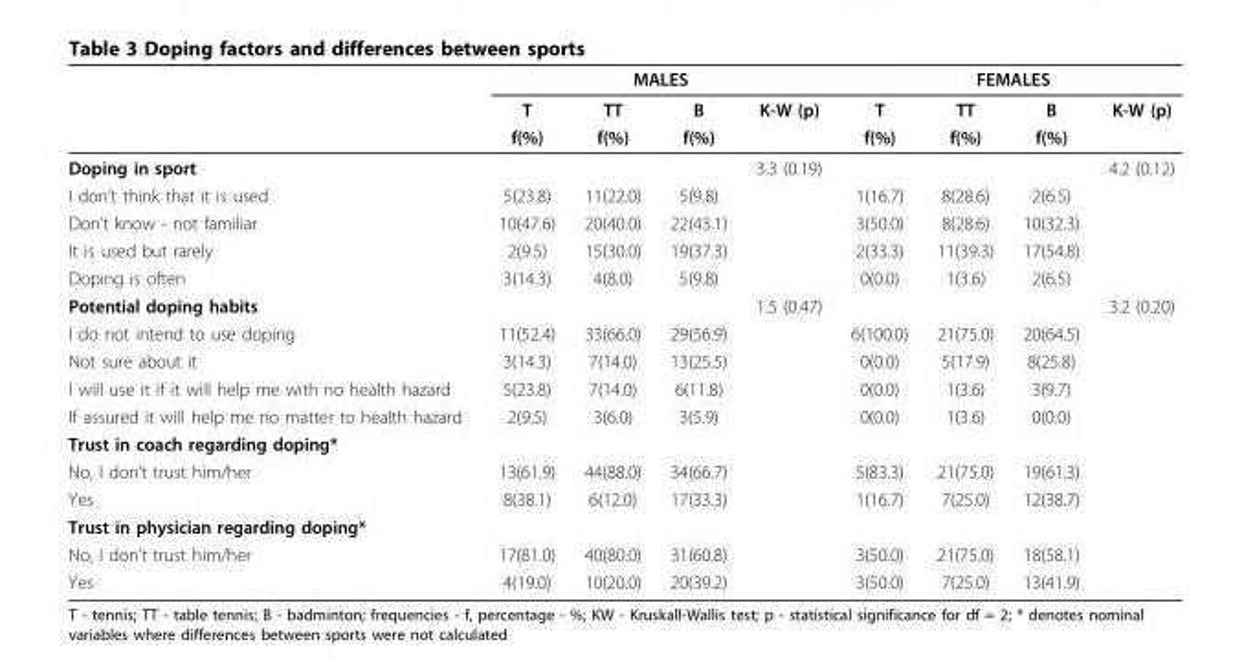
<table><thead><tr><td rowspan="3"></td><td colspan="4">MALES</td><td colspan="4">FEMALES</td></tr><tr><td rowspan="2">T f(%)</td><td rowspan="2">TT f(%)</td><td rowspan="2">B f(%)</td><td rowspan="2">K-W (p)</td><td rowspan="2">T f(%)</td><td rowspan="2">TT f(%)</td><td rowspan="2">B f(%)</td><td rowspan="2">K-W (p)</td></tr><tr></tr></thead><tbody><tr><td>Doping in sport</td><td></td><td></td><td></td><td>3.3 (0.19)</td><td></td><td></td><td></td><td>4.2 (0.12)</td></tr><tr><td>I don’t think that it is used</td><td>5(23.8)</td><td>11(22.0)</td><td>5(9.8)</td><td></td><td>1(16.7)</td><td>8(28.6)</td><td>2(6.5)</td><td></td></tr><tr><td>Don’t know - not familiar</td><td>10(47.6)</td><td>20(40.0)</td><td>22(43.1)</td><td></td><td>3(50.0)</td><td>8(28.6)</td><td>10(32.3)</td><td></td></tr><tr><td>It is used but rarely</td><td>2(9.5)</td><td>15(30.0)</td><td>19(37.3)</td><td></td><td>2(33.3)</td><td>11(39.3)</td><td>17(54.8)</td><td></td></tr><tr><td>Doping is often</td><td>3(14.3)</td><td>4(8.0)</td><td>5(9.8)</td><td></td><td>0(0.0)</td><td>1(3.6)</td><td>2(6.5)</td><td></td></tr><tr><td>Potential doping habits</td><td></td><td></td><td></td><td>1.5 (0.47)</td><td></td><td></td><td></td><td>3.2 (0.20)</td></tr><tr><td>I do not intend to use doping</td><td>11(52.4)</td><td>33(66.0)</td><td>29(56.9)</td><td></td><td>6(100.0)</td><td>21(75.0)</td><td>20(64.5)</td><td></td></tr><tr><td>Not sure about it</td><td>3(14.3)</td><td>7(14.0)</td><td>13(25.5)</td><td></td><td>0(0.0)</td><td>5(17.9)</td><td>8(25.8)</td><td></td></tr><tr><td>I will use it if it will help me with no health hazard</td><td>5(23.8)</td><td>7(14.0)</td><td>6(11.8)</td><td></td><td>0(0.0)</td><td>1(3.6)</td><td>3(9.7)</td><td></td></tr><tr><td>If assured it will help me no matter to health hazard</td><td>2(9.5)</td><td>3(6.0)</td><td>3(5.9)</td><td></td><td>0(0.0)</td><td>1(3.6)</td><td>0(0.0)</td><td></td></tr><tr><td colspan="9">Trust in coach regarding doping*</td></tr><tr><td>No, I don’t trust him/her</td><td>13(61.9)</td><td>44(88.0)</td><td>34(66.7)</td><td></td><td>5(83.3)</td><td>21(75.0)</td><td>19(61.3)</td><td></td></tr><tr><td>Yes</td><td>8(38.1)</td><td>6(12.0)</td><td>17(33.3)</td><td></td><td>1(16.7)</td><td>7(25.0)</td><td>12(38.7)</td><td></td></tr><tr><td colspan="9">Trust in physician regarding doping*</td></tr><tr><td>No, I don’t trust him/her</td><td>17(81.0)</td><td>40(80.0)</td><td>31(60.8)</td><td></td><td>3(50.0)</td><td>21(75.0)</td><td>18(58.1)</td><td></td></tr><tr><td>Yes</td><td>4(19.0)</td><td>10(20.0)</td><td>20(39.2)</td><td></td><td>3(50.0)</td><td>7(25.0)</td><td>13(41.9)</td><td></td></tr></tbody></table>